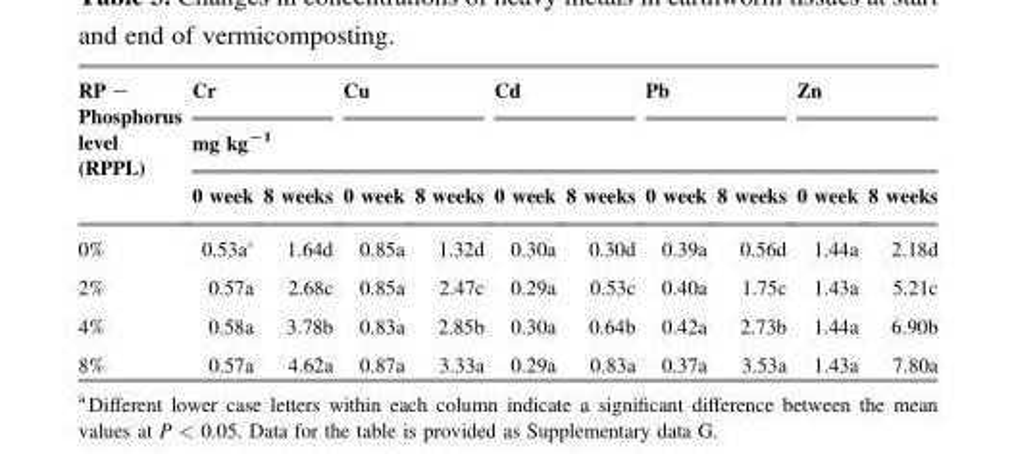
<table><thead><tr><td rowspan="3">RP – Phosphorus level (RPPL)</td><td colspan="2">Cr</td><td colspan="2">Cu</td><td colspan="2">Cd</td><td colspan="2">Pb</td><td colspan="2">Zn</td></tr><tr><td colspan="10">mg kg<sup>−1</sup></td></tr><tr><td>0 week</td><td>8 weeks</td><td>0 week</td><td>8 weeks</td><td>0 week</td><td>8 weeks</td><td>0 week</td><td>8 weeks</td><td>0 week</td><td>8 weeks</td></tr></thead><tbody><tr><td>0%</td><td>0.53a<sup>a</sup></td><td>1.64d</td><td>0.85a</td><td>1.32d</td><td>0.30a</td><td>0.30d</td><td>0.39a</td><td>0.56d</td><td>1.44a</td><td>2.18d</td></tr><tr><td>2%</td><td>0.57a</td><td>2.68c</td><td>0.85a</td><td>2.47c</td><td>0.29a</td><td>0.53c</td><td>0.40a</td><td>1.75c</td><td>1.43a</td><td>5.21c</td></tr><tr><td>4%</td><td>0.58a</td><td>3.78b</td><td>0.83a</td><td>2.85b</td><td>0.30a</td><td>0.64b</td><td>0.42a</td><td>2.73b</td><td>1.44a</td><td>6.90b</td></tr><tr><td>8%</td><td>0.57a</td><td>4.62a</td><td>0.87a</td><td>3.33a</td><td>0.29a</td><td>0.83a</td><td>0.37a</td><td>3.53a</td><td>1.43a</td><td>7.80a</td></tr></tbody></table>